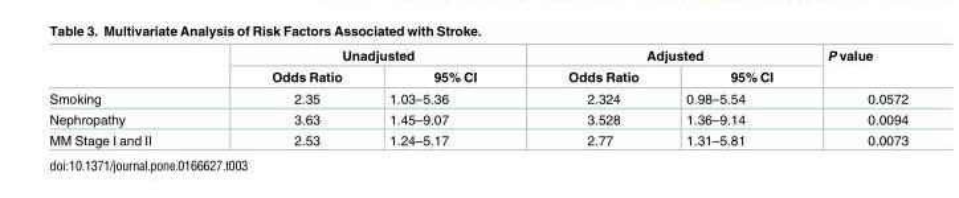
<table><thead><tr><td rowspan="2"></td><td colspan="2">Unadjusted</td><td colspan="2">Adjusted</td><td rowspan="2">P value</td></tr><tr><td>Odds Ratio</td><td>95% CI</td><td>Odds Ratio</td><td>95% CI</td></tr></thead><tbody><tr><td>Smoking</td><td>2.35</td><td>1.03–5.36</td><td>2.324</td><td>0.98–5.54</td><td>0.0572</td></tr><tr><td>Nephropathy</td><td>3.63</td><td>1.45–9.07</td><td>3.528</td><td>1.36–9.14</td><td>0.0094</td></tr><tr><td>MM Stage I and II</td><td>2.53</td><td>1.24–5.17</td><td>2.77</td><td>1.31–5.81</td><td>0.0073</td></tr></tbody></table>